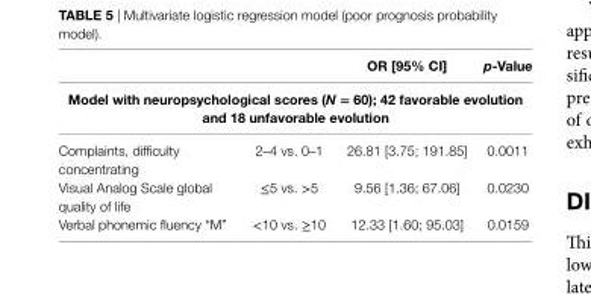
<table><thead><tr><td></td><td></td><td>Or [95% ci]</td><td>p-Value</td></tr><tr><td colspan="4">Model with neuropsychological scores (N = 60); 42 favorable evolution and 18 unfavorable evolution</td></tr></thead><tbody><tr><td>Complaints, difficulty concentrating</td><td>2–4 vs. 0–1</td><td>26.81 [3.75; 191.85]</td><td>0.0011</td></tr><tr><td>Visual Analog Scale global quality of life</td><td>≤5 vs. &gt;5</td><td>9.56 [1.36; 67.06]</td><td>0.0230</td></tr><tr><td>Verbal phonemic fluency “M”</td><td>&lt;10 vs. ≥10</td><td>12.33 [1.60; 95.03]</td><td>0.0159</td></tr></tbody></table>